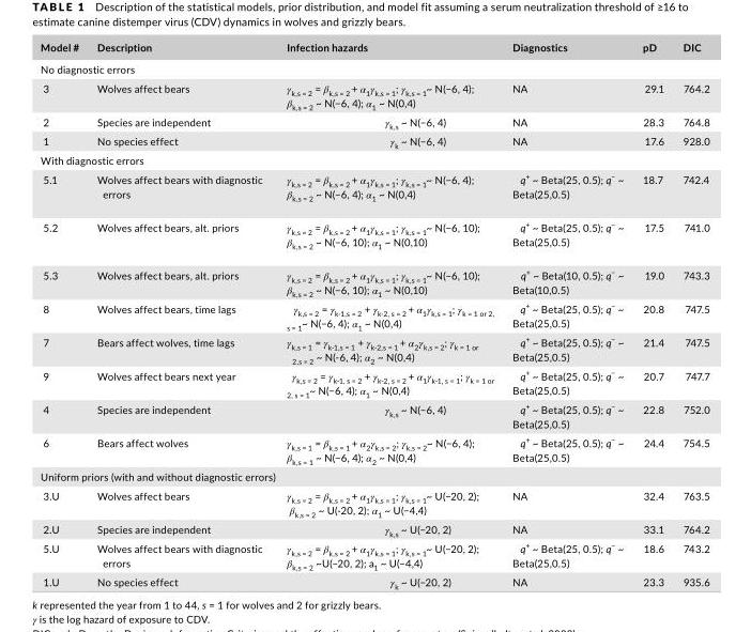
<table><thead><tr><td>Model #</td><td>Description</td><td>Infection hazards</td><td>Diagnostics</td><td>pD</td><td>DIC</td></tr></thead><tbody><tr><td colspan="6">No diagnostic errors</td></tr><tr><td>3</td><td>Wolves affect bears</td><td>γ<sub>k,s = 2</sub> = β<sub>k,s = 2</sub> + α<sub>1</sub>γ<sub>k,s = 1</sub>; γ<sub>k,s = 1</sub>~ N(−6, 4); β<sub>k,s = 2</sub> ~ N(−6, 4); α<sub>1</sub> ~ N(0,4)</td><td>NA</td><td>29.1</td><td>764.2</td></tr><tr><td>2</td><td>Species are independent</td><td>γ<sub>k,s</sub> ~ N(−6, 4)</td><td>NA</td><td>28.3</td><td>764.8</td></tr><tr><td>1</td><td>No species effect</td><td>γ<sub>k</sub> ~ N(−6, 4)</td><td>NA</td><td>17.6</td><td>928.0</td></tr><tr><td colspan="6">With diagnostic errors</td></tr><tr><td>5.1</td><td>Wolves affect bears with diagnostic errors</td><td>γ<sub>k,s = 2</sub> = β<sub>k,s = 2</sub> + α<sub>1</sub>γ<sub>k,s = 1</sub>; γ<sub>k,s = 1</sub>~ N(−6, 4); β<sub>k,s = 2</sub> ~ N(−6, 4); α<sub>1</sub> ~ N(0,4)</td><td>q<sup>+</sup> ~ Beta(25, 0.5); q<sup>−</sup> ~ Beta(25,0.5)</td><td>18.7</td><td>742.4</td></tr><tr><td>5.2</td><td>Wolves affect bears, alt. priors</td><td>γ<sub>k,s = 2</sub> = β<sub>k,s = 2</sub> + α<sub>1</sub>γ<sub>k,s = 1</sub>; γ<sub>k,s = 1</sub>~ N(−6, 10); β<sub>k,s = 2</sub> ~ N(−6, 10); α<sub>1</sub> ~ N(0,10)</td><td>q<sup>+</sup> ~ Beta(25, 0.5); q<sup>−</sup> ~ Beta(25,0.5)</td><td>17.5</td><td>741.0</td></tr><tr><td>5.3</td><td>Wolves affect bears, alt. priors</td><td>γ<sub>k,s = 2</sub> = β<sub>k,s = 2</sub> + α<sub>1</sub>γ<sub>k,s = 1</sub>; γ<sub>k,s = 1</sub>~ N(−6, 10); β<sub>k,s = 2</sub> ~ N(−6, 10); α<sub>1</sub> ~ N(0,10)</td><td>q<sup>+</sup> ~ Beta(10, 0.5); q<sup>−</sup> ~ Beta(10,0.5)</td><td>19.0</td><td>743.3</td></tr><tr><td>8</td><td>Wolves affect bears, time lags</td><td>γ<sub>k,s = 2</sub> = γ<sub>k-1,s = 2</sub> + γ<sub>k-2, s = 2</sub> + α<sub>1</sub>γ<sub>k,s = 1</sub>; γ<sub>k = 1 or 2, s = 1</sub>~ N(−6, 4); α<sub>1</sub> ~ N(0,4)</td><td>q<sup>+</sup> ~ Beta(25, 0.5); q<sup>−</sup> ~ Beta(25,0.5)</td><td>20.8</td><td>747.5</td></tr><tr><td>7</td><td>Bears affect wolves, time lags</td><td>γ<sub>k,s = 1</sub> = γ<sub>k-1,s = 1</sub> + γ<sub>k-2,s = 1</sub> + α<sub>2</sub>γ<sub>k,s = 2</sub>; γ<sub>k = 1 or 2,s = 2</sub> ~ N(- 6, 4); α<sub>2</sub> ~ N(0,4)</td><td>q<sup>+</sup> ~ Beta(25, 0.5); q<sup>−</sup> ~ Beta(25,0.5)</td><td>21.4</td><td>747.5</td></tr><tr><td>9</td><td>Wolves affect bears next year</td><td>γ<sub>k,s = 2</sub> = γ<sub>k-1, s = 2</sub> + γ<sub>k-2, s = 2</sub> + α<sub>1</sub>γ<sub>k-1, s = 1</sub>; γ<sub>k = 1 or 2, s = 1</sub>~ N(−6, 4); α<sub>1</sub> ~ N(0,4)</td><td>q<sup>+</sup> ~ Beta(25, 0.5); q<sup>−</sup> ~ Beta(25,0.5)</td><td>20.7</td><td>747.7</td></tr><tr><td>4</td><td>Species are independent</td><td>γ<sub>k,s</sub> ~ N(−6, 4)</td><td>q<sup>+</sup> ~ Beta(25, 0.5); q<sup>−</sup> ~ Beta(25,0.5)</td><td>22.8</td><td>752.0</td></tr><tr><td>6</td><td>Bears affect wolves</td><td>γ<sub>k,s = 1</sub> = β<sub>k,s = 1</sub> + α<sub>2</sub>γ<sub>k,s = 2</sub>; γ<sub>k,s = 2</sub>~ N(−6, 4); β<sub>k,s = 1</sub> ~ N(−6, 4); α<sub>2</sub> ~ N(0,4)</td><td>q<sup>+</sup> ~ Beta(25, 0.5); q<sup>−</sup> ~ Beta(25,0.5)</td><td>24.4</td><td>754.5</td></tr><tr><td colspan="6">Uniform priors (with and without diagnostic errors)</td></tr><tr><td>3.U</td><td>Wolves affect bears</td><td>γ<sub>k,s = 2</sub> = β<sub>k,s = 2</sub> + α<sub>1</sub>γ<sub>k,s = 1</sub>; γ<sub>k,s = 1</sub>~ U(−20, 2); β<sub>k,s = 2</sub> ~ U(- 20, 2); α<sub>1</sub> ~ U(−4,4)</td><td>NA</td><td>32.4</td><td>763.5</td></tr><tr><td>2.U</td><td>Species are independent</td><td>γ<sub>k,s</sub> ~ U(−20, 2)</td><td>NA</td><td>33.1</td><td>764.2</td></tr><tr><td>5.U</td><td>Wolves affect bears with diagnostic errors</td><td>γ<sub>k,s = 2</sub> = β<sub>k,s = 2</sub> + α<sub>1</sub>γ<sub>k,s = 1</sub>; γ<sub>k,s = 1</sub>~ U(−20, 2); β<sub>k,s = 2</sub> ~U(−20, 2); a<sub>1</sub> ~ U(−4,4)</td><td>q<sup>+</sup> ~ Beta(25, 0.5); q<sup>−</sup> ~ Beta(25,0.5)</td><td>18.6</td><td>743.2</td></tr><tr><td>1.U</td><td>No species effect</td><td>γ<sub>k</sub> ~ U(−20, 2)</td><td>NA</td><td>23.3</td><td>935.6</td></tr></tbody></table>